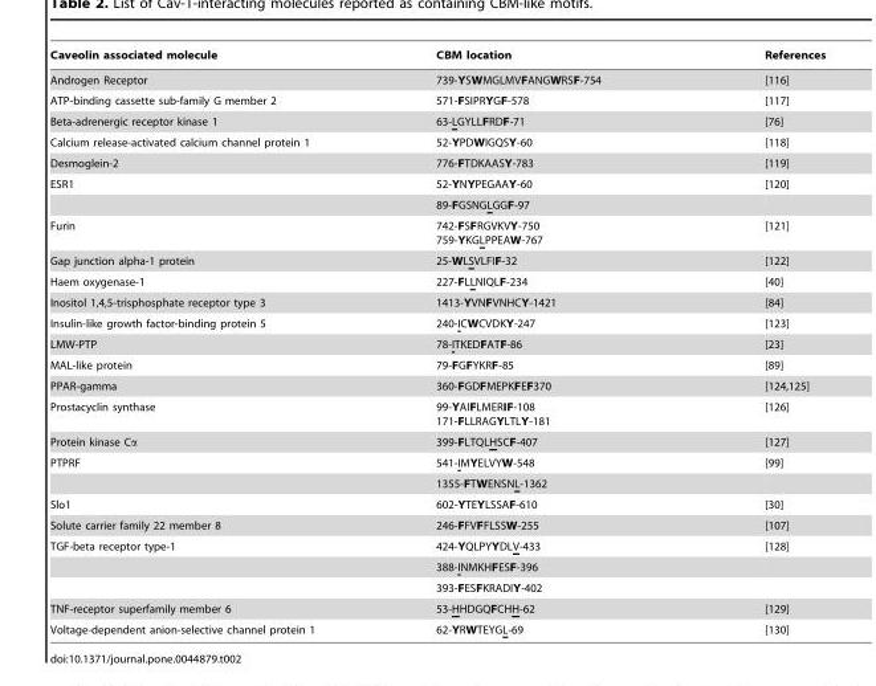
<table><thead><tr><td>Caveolin associated molecule</td><td>CBM location</td><td>References</td></tr></thead><tbody><tr><td>Androgen Receptor</td><td>739-YSWMGLMVFANGWRSF-754</td><td>[116]</td></tr><tr><td>ATP-binding cassette sub-family G member 2</td><td>571-FSIPRYGF-578</td><td>[117]</td></tr><tr><td>Beta-adrenergic receptor kinase 1</td><td>63-LGYLLFRDF-71</td><td>[76]</td></tr><tr><td>Calcium release-activated calcium channel protein 1</td><td>52-YPDWIGQSY-60</td><td>[118]</td></tr><tr><td>Desmoglein-2</td><td>776-FTDKAASY-783</td><td>[119]</td></tr><tr><td rowspan="2">ESR1</td><td>52-YNYPEGAAY-60</td><td>[120]</td></tr><tr><td>89-FGSNGLGGF-97</td><td></td></tr><tr><td>Furin</td><td>742-FSFRGVKVY-750 759-YKGLPPEAW-767</td><td>[121]</td></tr><tr><td>Gap junction alpha-1 protein</td><td>25-WLSVLFIF-32</td><td>[122]</td></tr><tr><td>Haem oxygenase-1</td><td>227-FLLNIQLF-234</td><td>[40]</td></tr><tr><td>Inositol 1,4,5-trisphosphate receptor type 3</td><td>1413-YVNFVNHCY-1421</td><td>[84]</td></tr><tr><td>Insulin-like growth factor-binding protein 5</td><td>240-ICWCVDKY-247</td><td>[123]</td></tr><tr><td>LMW-PTP</td><td>78-ITKEDFATF-86</td><td>[23]</td></tr><tr><td>MAL-like protein</td><td>79-FGFYKRF-85</td><td>[89]</td></tr><tr><td>PPAR-gamma</td><td>360-FGDFMEPKFEF370</td><td>[124,125]</td></tr><tr><td>Prostacyclin synthase</td><td>99-YAIFLMERIF-108 171-FLLRAGYLTLY-181</td><td>[126]</td></tr><tr><td>Protein kinase Cα</td><td>399-FLTQLHSCF-407</td><td>[127]</td></tr><tr><td rowspan="2">PTPRF</td><td>541-IMYELVYW-548</td><td>[99]</td></tr><tr><td>1355-FTWENSNL-1362</td><td></td></tr><tr><td>Slo1</td><td>602-YTEYLSSAF-610</td><td>[30]</td></tr><tr><td>Solute carrier family 22 member 8</td><td>246-FFVFFLSSW-255</td><td>[107]</td></tr><tr><td rowspan="3">TGF-beta receptor type-1</td><td>424-YQLPYYDLV-433</td><td>[128]</td></tr><tr><td>388-INMKHFESF-396</td><td></td></tr><tr><td>393-FESFKRADIY-402</td><td></td></tr><tr><td>TNF-receptor superfamily member 6</td><td>53-HHDGQFCHH-62</td><td>[129]</td></tr><tr><td>Voltage-dependent anion-selective channel protein 1</td><td>62-YRWTEYGL-69</td><td>[130]</td></tr></tbody></table>